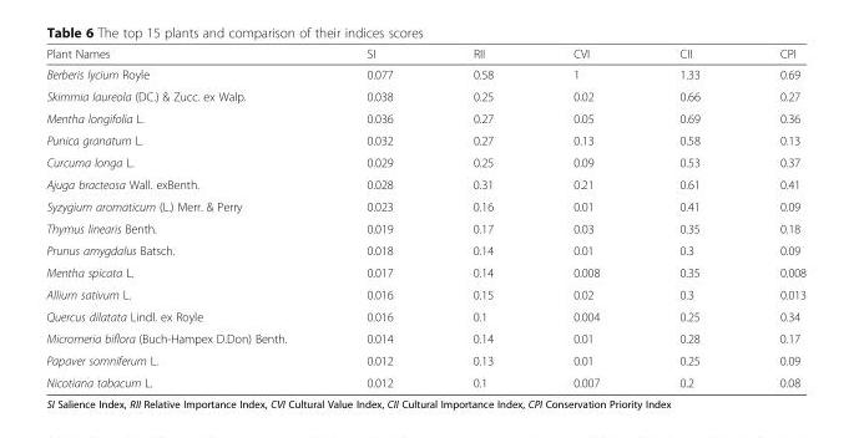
<table><thead><tr><td>Plant Names</td><td>SI</td><td>RII</td><td>CVI</td><td>CII</td><td>CPI</td></tr></thead><tbody><tr><td>Berberis lycium Royle</td><td>0.077</td><td>0.58</td><td>1</td><td>1.33</td><td>0.69</td></tr><tr><td>Skimmia laureola (DC.) &amp; Zucc. ex Walp.</td><td>0.038</td><td>0.25</td><td>0.02</td><td>0.66</td><td>0.27</td></tr><tr><td>Mentha longifolia L.</td><td>0.036</td><td>0.27</td><td>0.05</td><td>0.69</td><td>0.36</td></tr><tr><td>Punica granatum L.</td><td>0.032</td><td>0.27</td><td>0.13</td><td>0.58</td><td>0.13</td></tr><tr><td>Curcuma longa L.</td><td>0.029</td><td>0.25</td><td>0.09</td><td>0.53</td><td>0.37</td></tr><tr><td>Ajuga bracteosa Wall. exBenth.</td><td>0.028</td><td>0.31</td><td>0.21</td><td>0.61</td><td>0.41</td></tr><tr><td>Syzygium aromaticum (L.) Merr. &amp; Perry</td><td>0.023</td><td>0.16</td><td>0.01</td><td>0.41</td><td>0.09</td></tr><tr><td>Thymus linearis Benth.</td><td>0.019</td><td>0.17</td><td>0.03</td><td>0.35</td><td>0.18</td></tr><tr><td>Prunus amygdalus Batsch.</td><td>0.018</td><td>0.14</td><td>0.01</td><td>0.3</td><td>0.09</td></tr><tr><td>Mentha spicata L.</td><td>0.017</td><td>0.14</td><td>0.008</td><td>0.35</td><td>0.008</td></tr><tr><td>Allium sativum L.</td><td>0.016</td><td>0.15</td><td>0.02</td><td>0.3</td><td>0.013</td></tr><tr><td>Quercus dilatata Lindl. ex Royle</td><td>0.016</td><td>0.1</td><td>0.004</td><td>0.25</td><td>0.34</td></tr><tr><td>Micromeria biflora (Buch-Hampex D.Don) Benth.</td><td>0.014</td><td>0.14</td><td>0.01</td><td>0.28</td><td>0.17</td></tr><tr><td>Papaver somniferum L.</td><td>0.012</td><td>0.13</td><td>0.01</td><td>0.25</td><td>0.09</td></tr><tr><td>Nicotiana tabacum L.</td><td>0.012</td><td>0.1</td><td>0.007</td><td>0.2</td><td>0.08</td></tr></tbody></table>